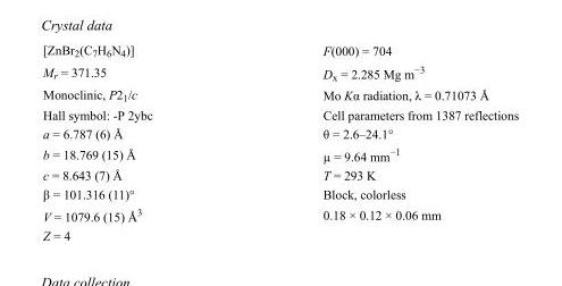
<table><tbody><tr><td>[ZnBr<sub>2</sub>(C<sub>7</sub>H<sub>6</sub>N<sub>4</sub>)]</td><td>F(000) = 704</td></tr><tr><td>M<sub>r</sub> = 371.35</td><td>D<sub>x</sub> = 2.285 Mg m<sup>−3</sup></td></tr><tr><td>Monoclinic, P2<sub>1</sub>/c</td><td>Mo Kα radiation, λ = 0.71073 Å</td></tr><tr><td>Hall symbol: -P 2ybc</td><td>Cell parameters from 1387 reflections</td></tr><tr><td>a = 6.787 (6) Å</td><td>θ = 2.6–24.1°</td></tr><tr><td>b = 18.769 (15) Å</td><td>µ = 9.64 mm<sup>−1</sup></td></tr><tr><td>c = 8.643 (7) Å</td><td>T = 293 K</td></tr><tr><td>β = 101.316 (11)°</td><td>Block, colorless</td></tr><tr><td>V = 1079.6 (15) Å<sup>3</sup></td><td>0.18 × 0.12 × 0.06 mm</td></tr><tr><td>Z = 4</td><td></td></tr></tbody></table>